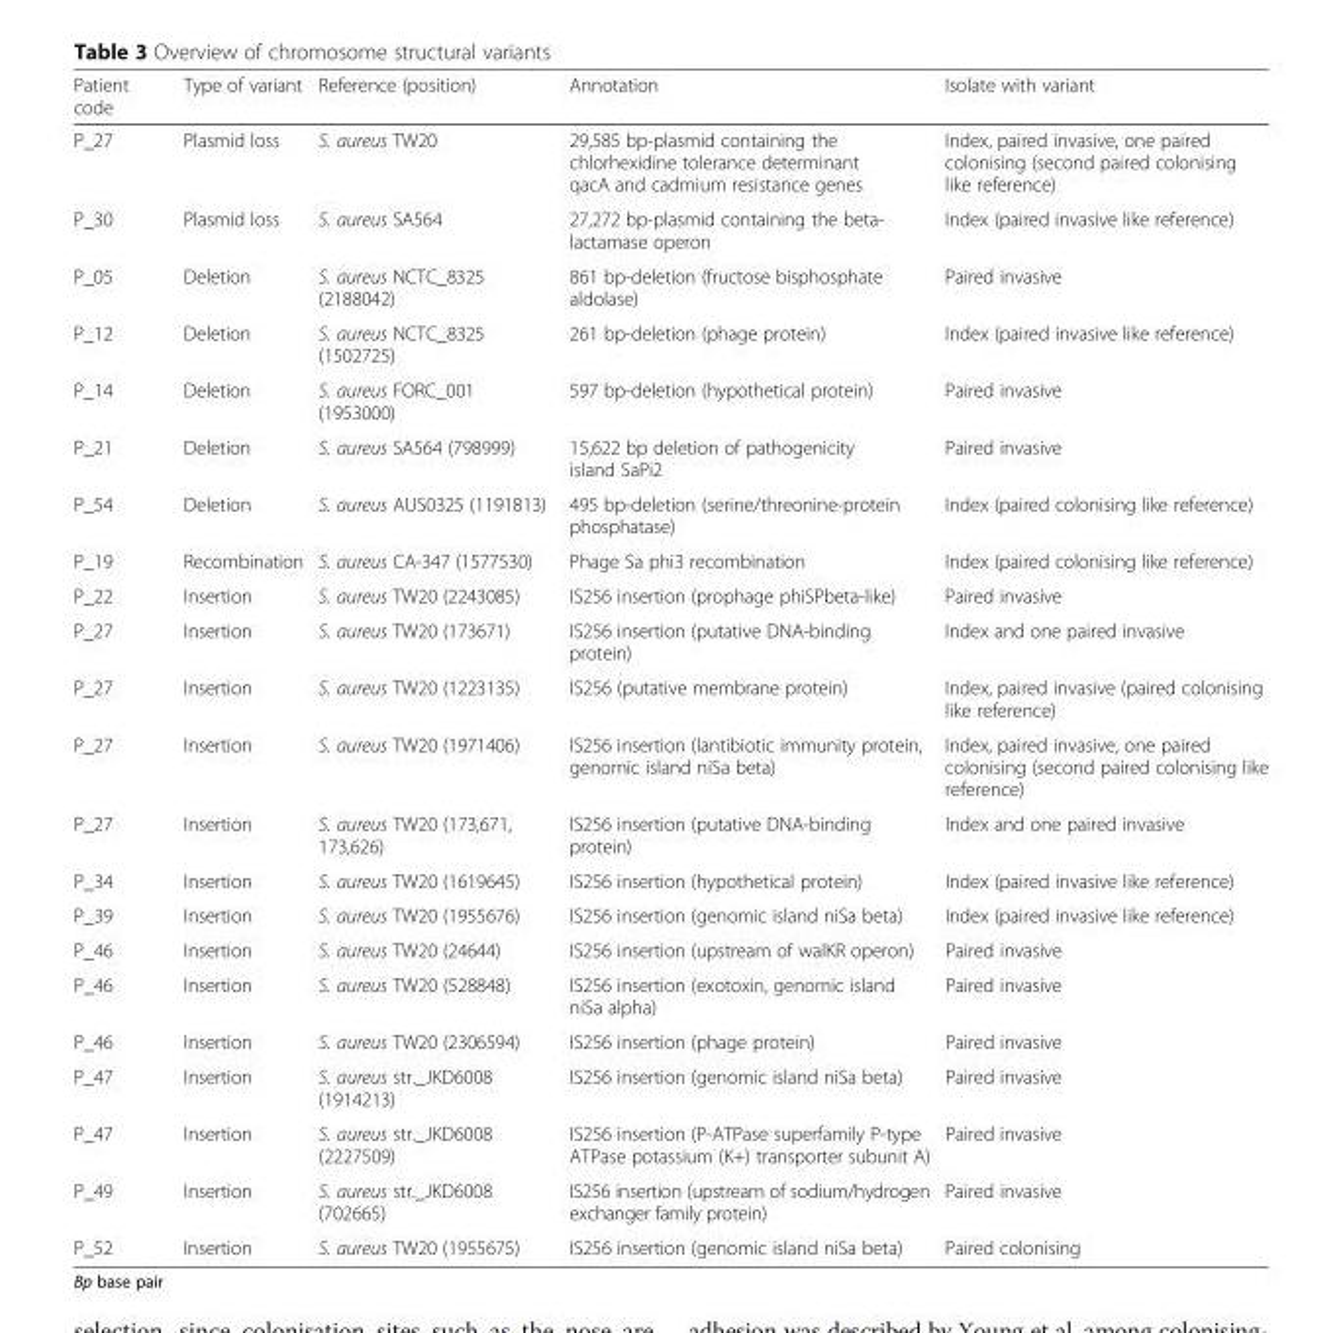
<table><thead><tr><td>Patient code</td><td>Type of variant</td><td>Reference (position)</td><td>Annotation</td><td>Isolate with variant</td></tr></thead><tbody><tr><td>P_27</td><td>Plasmid loss</td><td>S. aureus TW20</td><td>29,585 bp-plasmid containing the chlorhexidine tolerance determinant qacA and cadmium resistance genes</td><td>Index, paired invasive, one paired colonising (second paired colonising like reference)</td></tr><tr><td>P_30</td><td>Plasmid loss</td><td>S. aureus SA564</td><td>27,272 bp-plasmid containing the beta- lactamase operon</td><td>Index (paired invasive like reference)</td></tr><tr><td>P_05</td><td>Deletion</td><td>S. aureus NCTC_8325 (2188042)</td><td>861 bp-deletion (fructose bisphosphate aldolase)</td><td>Paired invasive</td></tr><tr><td>P_12</td><td>Deletion</td><td>S. aureus NCTC_8325 (1502725)</td><td>261 bp-deletion (phage protein)</td><td>Index (paired invasive like reference)</td></tr><tr><td>P_14</td><td>Deletion</td><td>S. aureus FORC_001 (1953000)</td><td>597 bp-deletion (hypothetical protein)</td><td>Paired invasive</td></tr><tr><td>P_21</td><td>Deletion</td><td>S. aureus SA564 (798999)</td><td>15,622 bp deletion of pathogenicity island SaPi2</td><td>Paired invasive</td></tr><tr><td>P_54</td><td>Deletion</td><td>S. aureus AUS0325 (1191813)</td><td>495 bp-deletion (serine/threonine-protein phosphatase)</td><td>Index (paired colonising like reference)</td></tr><tr><td>P_19</td><td>Recombination</td><td>S. aureus CA-347 (1577530)</td><td>Phage Sa phi3 recombination</td><td>Index (paired colonising like reference)</td></tr><tr><td>P_22</td><td>Insertion</td><td>S. aureus TW20 (2243085)</td><td>IS256 insertion (prophage phiSPbeta-like)</td><td>Paired invasive</td></tr><tr><td>P_27</td><td>Insertion</td><td>S. aureus TW20 (173671)</td><td>IS256 insertion (putative DNA-binding protein)</td><td>Index and one paired invasive</td></tr><tr><td>P_27</td><td>Insertion</td><td>S. aureus TW20 (1223135)</td><td>IS256 (putative membrane protein)</td><td>Index, paired invasive (paired colonising like reference)</td></tr><tr><td>P_27</td><td>Insertion</td><td>S. aureus TW20 (1971406)</td><td>IS256 insertion (lantibiotic immunity protein, genomic island niSa beta)</td><td>Index, paired invasive, one paired colonising (second paired colonising like reference)</td></tr><tr><td>P_27</td><td>Insertion</td><td>S. aureus TW20 (173,671, 173,626)</td><td>IS256 insertion (putative DNA-binding protein)</td><td>Index and one paired invasive</td></tr><tr><td>P_34</td><td>Insertion</td><td>S. aureus TW20 (1619645)</td><td>IS256 insertion (hypothetical protein)</td><td>Index (paired invasive like reference)</td></tr><tr><td>P_39</td><td>Insertion</td><td>S. aureus TW20 (1955676)</td><td>IS256 insertion (genomic island niSa beta)</td><td>Index (paired invasive like reference)</td></tr><tr><td>P_46</td><td>Insertion</td><td>S. aureus TW20 (24644)</td><td>IS256 insertion (upstream of walKR operon)</td><td>Paired invasive</td></tr><tr><td>P_46</td><td>Insertion</td><td>S. aureus TW20 (528848)</td><td>IS256 insertion (exotoxin, genomic island niSa alpha)</td><td>Paired invasive</td></tr><tr><td>P_46</td><td>Insertion</td><td>S. aureus TW20 (2306594)</td><td>IS256 insertion (phage protein)</td><td>Paired invasive</td></tr><tr><td>P_47</td><td>Insertion</td><td>S. aureus str._JKD6008 (1914213)</td><td>IS256 insertion (genomic island niSa beta)</td><td>Paired invasive</td></tr><tr><td>P_47</td><td>Insertion</td><td>S. aureus str._JKD6008 (2227509)</td><td>IS256 insertion (P-ATPase superfamily P-type ATPase potassium (K+) transporter subunit A)</td><td>Paired invasive</td></tr><tr><td>P_49</td><td>Insertion</td><td>S. aureus str._JKD6008 (702665)</td><td>IS256 insertion (upstream of sodium/hydrogen exchanger family protein)</td><td>Paired invasive</td></tr><tr><td>P_52</td><td>Insertion</td><td>S. aureus TW20 (1955675)</td><td>IS256 insertion (genomic island niSa beta)</td><td>Paired colonising</td></tr></tbody></table>